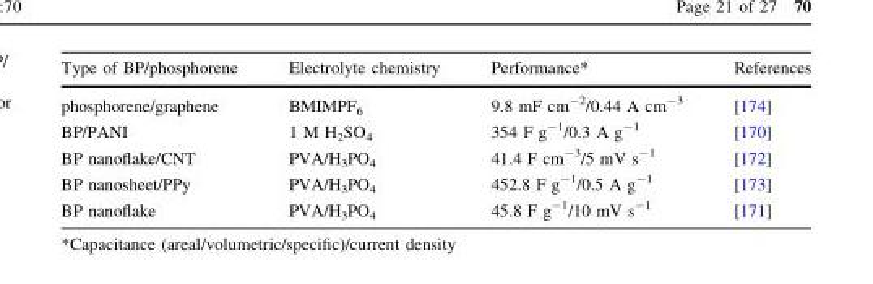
<table><thead><tr><td>Type of BP/phosphorene</td><td>Electrolyte chemistry</td><td>Performance*</td><td>References</td></tr></thead><tbody><tr><td>phosphorene/graphene</td><td>BMIMPF<sub>6</sub></td><td>9.8 mF cm<sup>-2</sup>/0.44 A cm<sup>-3</sup></td><td>[174]</td></tr><tr><td>BP/PANI</td><td>1 M H<sub>2</sub>SO<sub>4</sub></td><td>354 F g<sup>-1</sup>/0.3 A g<sup>-1</sup></td><td>[170]</td></tr><tr><td>BP nanoflake/CNT</td><td>PVA/H<sub>3</sub>PO<sub>4</sub></td><td>41.4 F cm<sup>-3</sup>/5 mV s<sup>-1</sup></td><td>[172]</td></tr><tr><td>BP nanosheet/PPy</td><td>PVA/H<sub>3</sub>PO<sub>4</sub></td><td>452.8 F g<sup>-1</sup>/0.5 A g<sup>-1</sup></td><td>[173]</td></tr><tr><td>BP nanoflake</td><td>PVA/H<sub>3</sub>PO<sub>4</sub></td><td>45.8 F g<sup>-1</sup>/10 mV s<sup>-1</sup></td><td>[171]</td></tr></tbody></table>